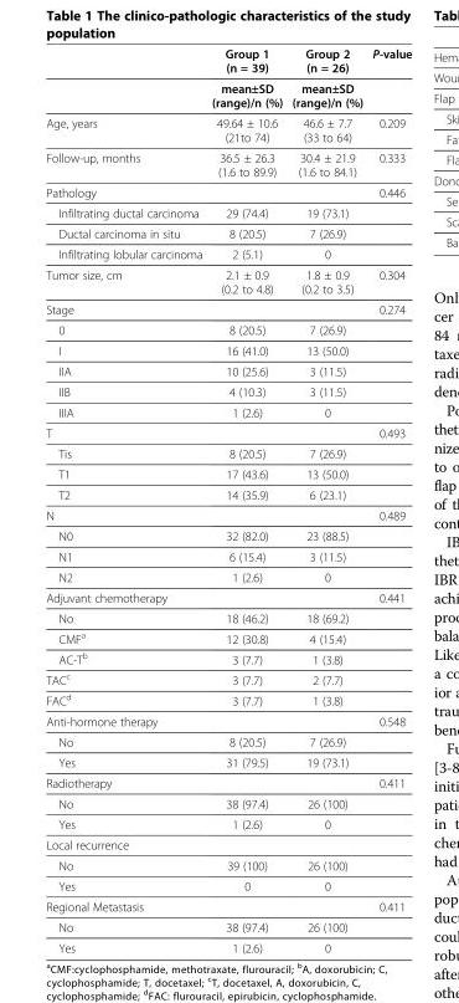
<table><thead><tr><td></td><td>Group 1 (n = 39)</td><td>Group 2 (n = 26)</td><td>P-value</td></tr></thead><tbody><tr><td></td><td>mean±SD (range)/n (%)</td><td>mean±SD (range)/n (%)</td><td></td></tr><tr><td>Age, years</td><td>49.64 ± 10.6 (21to 74)</td><td>46.6 ± 7.7 (33 to 64)</td><td>0.209</td></tr><tr><td>Follow-up, months</td><td>36.5 ± 26.3 (1.6 to 89.9)</td><td>30.4 ± 21.9 (1.6 to 84.1)</td><td>0.333</td></tr><tr><td>Pathology</td><td></td><td></td><td>0.446</td></tr><tr><td>Infiltrating ductal carcinoma</td><td>29 (74.4)</td><td>19 (73.1)</td><td></td></tr><tr><td>Ductal carcinoma in situ</td><td>8 (20.5)</td><td>7 (26.9)</td><td></td></tr><tr><td>Infiltrating lobular carcinoma</td><td>2 (5.1)</td><td>0</td><td></td></tr><tr><td>Tumor size, cm</td><td>2.1 ± 0.9 (0.2 to 4.8)</td><td>1.8 ± 0.9 (0.2 to 3.5)</td><td>0.304</td></tr><tr><td>Stage</td><td></td><td></td><td>0.274</td></tr><tr><td>0</td><td>8 (20.5)</td><td>7 (26.9)</td><td></td></tr><tr><td>I</td><td>16 (41.0)</td><td>13 (50.0)</td><td></td></tr><tr><td>IIA</td><td>10 (25.6)</td><td>3 (11.5)</td><td></td></tr><tr><td>IIB</td><td>4 (10.3)</td><td>3 (11.5)</td><td></td></tr><tr><td>IIIA</td><td>1 (2.6)</td><td>0</td><td></td></tr><tr><td>T</td><td></td><td></td><td>0.493</td></tr><tr><td>Tis</td><td>8 (20.5)</td><td>7 (26.9)</td><td></td></tr><tr><td>T1</td><td>17 (43.6)</td><td>13 (50.0)</td><td></td></tr><tr><td>T2</td><td>14 (35.9)</td><td>6 (23.1)</td><td></td></tr><tr><td>N</td><td></td><td></td><td>0.489</td></tr><tr><td>N0</td><td>32 (82.0)</td><td>23 (88.5)</td><td></td></tr><tr><td>N1</td><td>6 (15.4)</td><td>3 (11.5)</td><td></td></tr><tr><td>N2</td><td>1 (2.6)</td><td>0</td><td></td></tr><tr><td>Adjuvant chemotherapy</td><td></td><td></td><td>0.441</td></tr><tr><td>No</td><td>18 (46.2)</td><td>18 (69.2)</td><td></td></tr><tr><td>CMF<sup>a</sup></td><td>12 (30.8)</td><td>4 (15.4)</td><td></td></tr><tr><td>AC-T<sup>b</sup></td><td>3 (7.7)</td><td>1 (3.8)</td><td></td></tr><tr><td>TAC<sup>c</sup></td><td>3 (7.7)</td><td>2 (7.7)</td><td></td></tr><tr><td>FAC<sup>d</sup></td><td>3 (7.7)</td><td>1 (3.8)</td><td></td></tr><tr><td>Anti-hormone therapy</td><td></td><td></td><td>0.548</td></tr><tr><td>No</td><td>8 (20.5)</td><td>7 (26.9)</td><td></td></tr><tr><td>Yes</td><td>31 (79.5)</td><td>19 (73.1)</td><td></td></tr><tr><td>Radiotherapy</td><td></td><td></td><td>0.411</td></tr><tr><td>No</td><td>38 (97.4)</td><td>26 (100)</td><td></td></tr><tr><td>Yes</td><td>1 (2.6)</td><td>0</td><td></td></tr><tr><td colspan="4">Local recurrence</td></tr><tr><td>No</td><td>39 (100)</td><td>26 (100)</td><td></td></tr><tr><td>Yes</td><td>0</td><td>0</td><td></td></tr><tr><td>Regional Metastasis</td><td></td><td></td><td>0.411</td></tr><tr><td>No</td><td>38 (97.4)</td><td>26 (100)</td><td></td></tr><tr><td>Yes</td><td>1 (2.6)</td><td>0</td><td></td></tr></tbody></table>